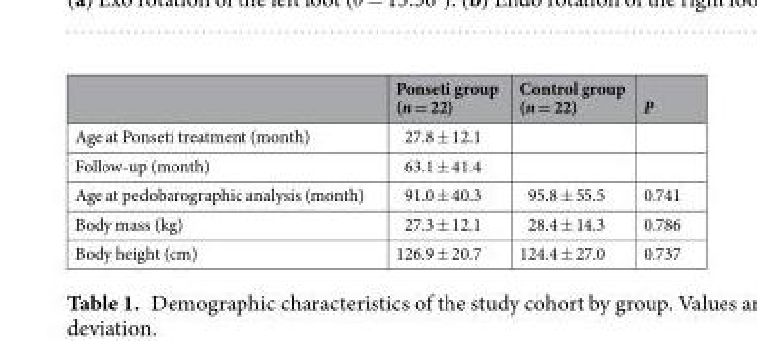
<table><thead><tr><td></td><td>Ponseti group (n = 22)</td><td>Control group (n = 22)</td><td>P</td></tr></thead><tbody><tr><td>Age at Ponseti treatment (month)</td><td>27.8 ± 12.1</td><td></td><td></td></tr><tr><td>Follow-up (month)</td><td>63.1 ± 41.4</td><td></td><td></td></tr><tr><td>Age at pedobarographic analysis (month)</td><td>91.0 ± 40.3</td><td>95.8 ± 55.5</td><td>0.741</td></tr><tr><td>Body mass (kg)</td><td>27.3 ± 12.1</td><td>28.4 ± 14.3</td><td>0.786</td></tr><tr><td>Body height (cm)</td><td>126.9 ± 20.7</td><td>124.4 ± 27.0</td><td>0.737</td></tr></tbody></table>